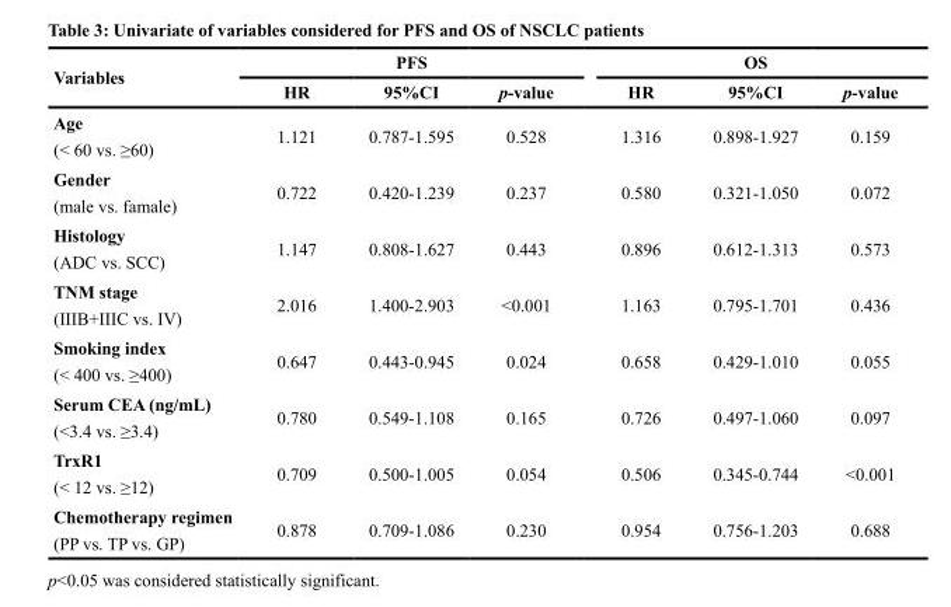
<table><thead><tr><td rowspan="2">Variables</td><td colspan="3">PFS</td><td colspan="3">OS</td></tr><tr><td>HR</td><td>95%CI</td><td>p-value</td><td>HR</td><td>95%CI</td><td>p-value</td></tr></thead><tbody><tr><td>Age (&lt; 60 vs. ≥60)</td><td>1.121</td><td>0.787-1.595</td><td>0.528</td><td>1.316</td><td>0.898-1.927</td><td>0.159</td></tr><tr><td>Gender (male vs. famale)</td><td>0.722</td><td>0.420-1.239</td><td>0.237</td><td>0.580</td><td>0.321-1.050</td><td>0.072</td></tr><tr><td>Histology (ADC vs. SCC)</td><td>1.147</td><td>0.808-1.627</td><td>0.443</td><td>0.896</td><td>0.612-1.313</td><td>0.573</td></tr><tr><td>TNM stage (IIIB+IIIC vs. IV)</td><td>2.016</td><td>1.400-2.903</td><td>&lt;0.001</td><td>1.163</td><td>0.795-1.701</td><td>0.436</td></tr><tr><td>Smoking index (&lt; 400 vs. ≥400)</td><td>0.647</td><td>0.443-0.945</td><td>0.024</td><td>0.658</td><td>0.429-1.010</td><td>0.055</td></tr><tr><td>Serum CEA (ng/mL) (&lt;3.4 vs. ≥3.4)</td><td>0.780</td><td>0.549-1.108</td><td>0.165</td><td>0.726</td><td>0.497-1.060</td><td>0.097</td></tr><tr><td>TrxR1 (&lt; 12 vs. ≥12)</td><td>0.709</td><td>0.500-1.005</td><td>0.054</td><td>0.506</td><td>0.345-0.744</td><td>&lt;0.001</td></tr><tr><td>Chemotherapy regimen (PP vs. TP vs. GP)</td><td>0.878</td><td>0.709-1.086</td><td>0.230</td><td>0.954</td><td>0.756-1.203</td><td>0.688</td></tr></tbody></table>